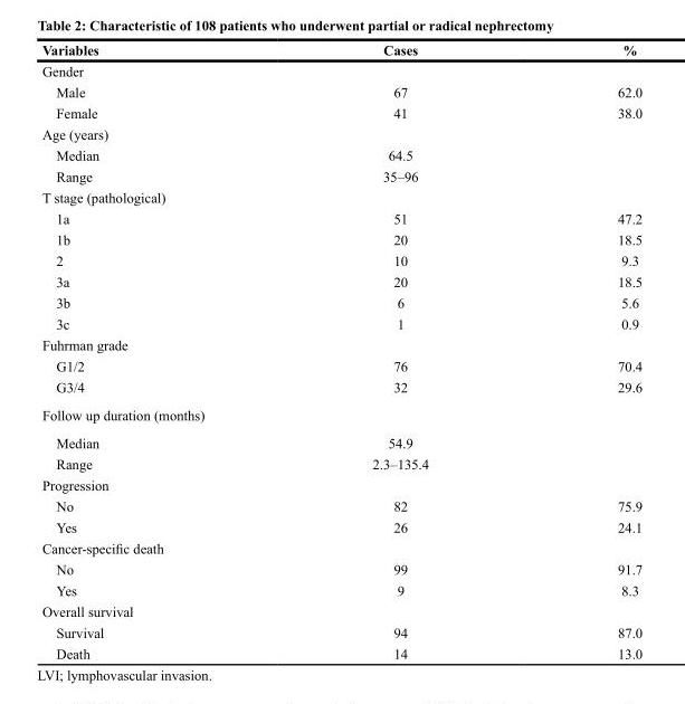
<table><thead><tr><td>Variables</td><td>Cases</td><td>%</td></tr></thead><tbody><tr><td colspan="3">Gender</td></tr><tr><td>Male</td><td>67</td><td>62.0</td></tr><tr><td>Female</td><td>41</td><td>38.0</td></tr><tr><td colspan="3">Age (years)</td></tr><tr><td>Median</td><td>64.5</td><td></td></tr><tr><td>Range</td><td>35–96</td><td></td></tr><tr><td colspan="3">T stage (pathological)</td></tr><tr><td>1a</td><td>51</td><td>47.2</td></tr><tr><td>1b</td><td>20</td><td>18.5</td></tr><tr><td>2</td><td>10</td><td>9.3</td></tr><tr><td>3a</td><td>20</td><td>18.5</td></tr><tr><td>3b</td><td>6</td><td>5.6</td></tr><tr><td>3c</td><td>1</td><td>0.9</td></tr><tr><td colspan="3">Fuhrman grade</td></tr><tr><td>G1/2</td><td>76</td><td>70.4</td></tr><tr><td>G3/4</td><td>32</td><td>29.6</td></tr><tr><td colspan="3">Follow up duration (months)</td></tr><tr><td>Median</td><td>54.9</td><td></td></tr><tr><td>Range</td><td>2.3–135.4</td><td></td></tr><tr><td colspan="3">Progression</td></tr><tr><td>No</td><td>82</td><td>75.9</td></tr><tr><td>Yes</td><td>26</td><td>24.1</td></tr><tr><td colspan="3">Cancer-specific death</td></tr><tr><td>No</td><td>99</td><td>91.7</td></tr><tr><td>Yes</td><td>9</td><td>8.3</td></tr><tr><td colspan="3">Overall survival</td></tr><tr><td>Survival</td><td>94</td><td>87.0</td></tr><tr><td>Death</td><td>14</td><td>13.0</td></tr></tbody></table>